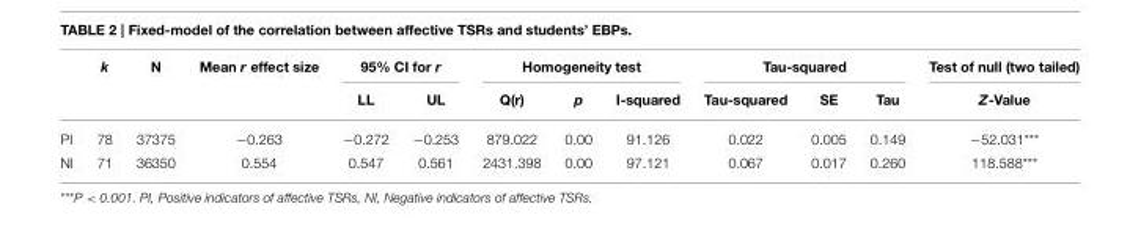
<table><thead><tr><td rowspan="2"></td><td rowspan="2">k</td><td rowspan="2">N</td><td rowspan="2">Mean r effect size</td><td colspan="2">95% CI for r</td><td colspan="3">Homogeneity test</td><td colspan="3">Tau-squared</td><td rowspan="2">Test of null (two tailed) Z-Value</td></tr><tr><td>LL</td><td>UL</td><td>Q(r)</td><td>p</td><td>I-squared</td><td>Tau-squared</td><td>SE</td><td>Tau</td></tr></thead><tbody><tr><td>PI</td><td>78</td><td>37375</td><td>−0.263</td><td>−0.272</td><td>−0.253</td><td>879.022</td><td>0.00</td><td>91.126</td><td>0.022</td><td>0.005</td><td>0.149</td><td>−52.031***</td></tr><tr><td>NI</td><td>71</td><td>36350</td><td>0.554</td><td>0.547</td><td>0.561</td><td>2431.398</td><td>0.00</td><td>97.121</td><td>0.067</td><td>0.017</td><td>0.260</td><td>118.588***</td></tr></tbody></table>